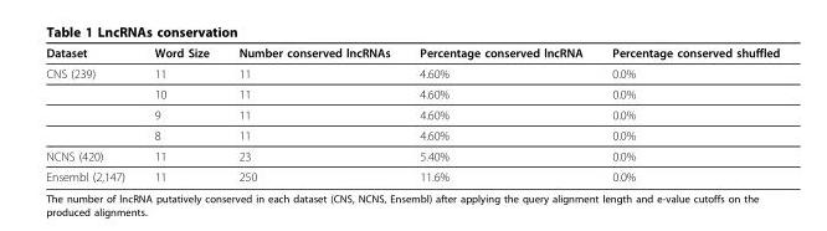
<table><thead><tr><td>Dataset</td><td>Word Size</td><td>Number conserved lncRNAs</td><td>Percentage conserved lncRNA</td><td>Percentage conserved shuffled</td></tr></thead><tbody><tr><td rowspan="4">CNS (239)</td><td>11</td><td>11</td><td>4.60%</td><td>0.0%</td></tr><tr><td>10</td><td>11</td><td>4.60%</td><td>0.0%</td></tr><tr><td>9</td><td>11</td><td>4.60%</td><td>0.0%</td></tr><tr><td>8</td><td>11</td><td>4.60%</td><td>0.0%</td></tr><tr><td>NCNS (420)</td><td>11</td><td>23</td><td>5.40%</td><td>0.0%</td></tr><tr><td>Ensembl (2,147)</td><td>11</td><td>250</td><td>11.6%</td><td>0.0%</td></tr></tbody></table>